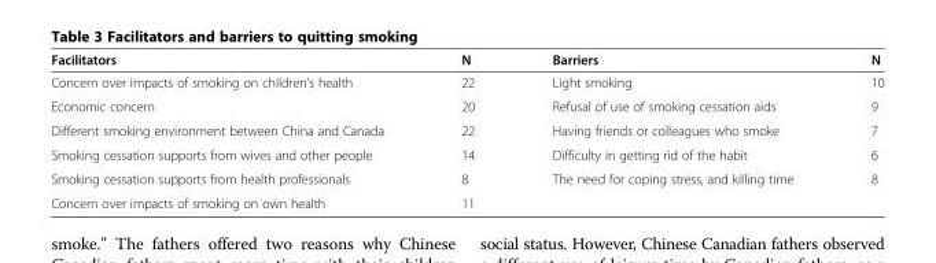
<table><thead><tr><td>Facilitators</td><td>N</td><td>Barriers</td><td>N</td></tr></thead><tbody><tr><td>Concern over impacts of smoking on children’s health</td><td>22</td><td>Light smoking</td><td>10</td></tr><tr><td>Economic concern</td><td>20</td><td>Refusal of use of smoking cessation aids</td><td>9</td></tr><tr><td>Different smoking environment between China and Canada</td><td>22</td><td>Having friends or colleagues who smoke</td><td>7</td></tr><tr><td>Smoking cessation supports from wives and other people</td><td>14</td><td>Difficulty in getting rid of the habit</td><td>6</td></tr><tr><td>Smoking cessation supports from health professionals</td><td>8</td><td>The need for coping stress, and killing time</td><td>8</td></tr><tr><td>Concern over impacts of smoking on own health</td><td>11</td><td></td><td></td></tr></tbody></table>